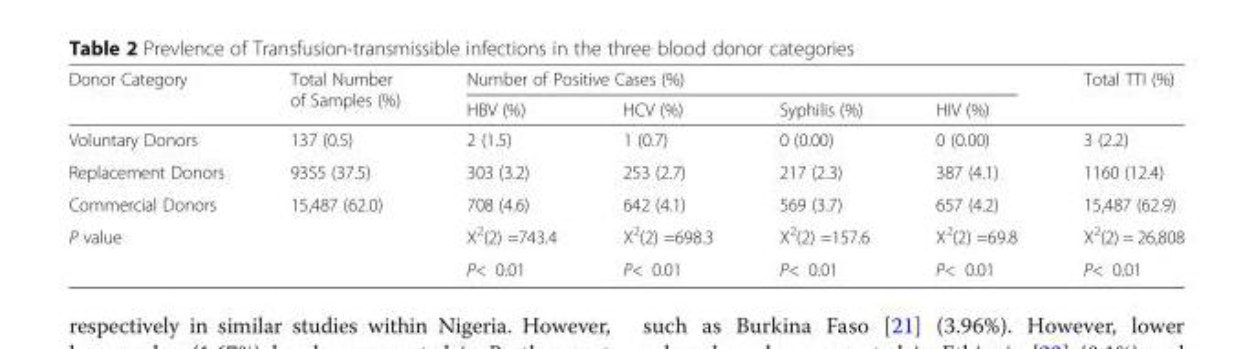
<table><thead><tr><td rowspan="2">Donor Category</td><td rowspan="2">Total Number of Samples (%)</td><td colspan="4">Number of Positive Cases (%)</td><td rowspan="2">Total TTI (%)</td></tr><tr><td>HBV (%)</td><td>HCV (%)</td><td>Syphilis (%)</td><td>HIV (%)</td></tr></thead><tbody><tr><td>Voluntary Donors</td><td>137 (0.5)</td><td>2 (1.5)</td><td>1 (0.7)</td><td>0 (0.00)</td><td>0 (0.00)</td><td>3 (2.2)</td></tr><tr><td>Replacement Donors</td><td>9355 (37.5)</td><td>303 (3.2)</td><td>253 (2.7)</td><td>217 (2.3)</td><td>387 (4.1)</td><td>1160 (12.4)</td></tr><tr><td>Commercial Donors</td><td>15,487 (62.0)</td><td>708 (4.6)</td><td>642 (4.1)</td><td>569 (3.7)</td><td>657 (4.2)</td><td>15,487 (62.9)</td></tr><tr><td rowspan="2">P value</td><td></td><td>X<sup>2</sup>(2) =743.4</td><td>X<sup>2</sup>(2) =698.3</td><td>X<sup>2</sup>(2) =157.6</td><td>X<sup>2</sup>(2) =69.8</td><td>X<sup>2</sup>(2) = 26,808</td></tr><tr><td></td><td>P&lt; 0.01</td><td>P&lt; 0.01</td><td>P&lt; 0.01</td><td>P&lt; 0.01</td><td>P&lt; 0.01</td></tr></tbody></table>